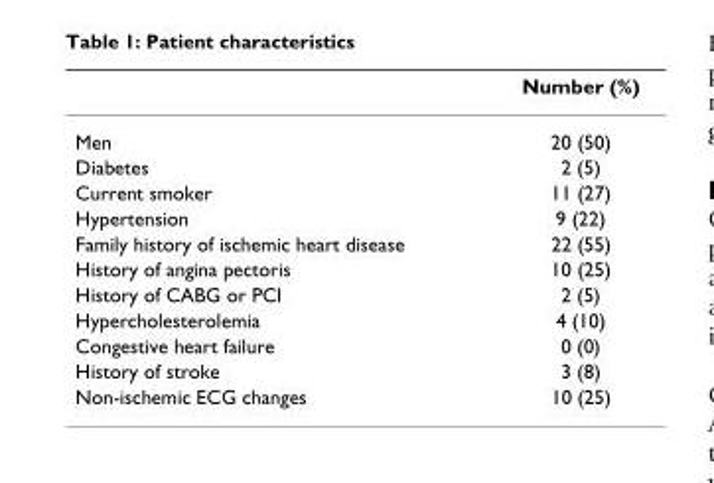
<table><thead><tr><td></td><td>Number (%)</td></tr></thead><tbody><tr><td>Men</td><td>20 (50)</td></tr><tr><td>Diabetes</td><td>2 (5)</td></tr><tr><td>Current smoker</td><td>11 (27)</td></tr><tr><td>Hypertension</td><td>9 (22)</td></tr><tr><td>Family history of ischemic heart disease</td><td>22 (55)</td></tr><tr><td>History of angina pectoris</td><td>10 (25)</td></tr><tr><td>History of CABG or PCI</td><td>2 (5)</td></tr><tr><td>Hypercholesterolemia</td><td>4 (10)</td></tr><tr><td>Congestive heart failure</td><td>0 (0)</td></tr><tr><td>History of stroke</td><td>3 (8)</td></tr><tr><td>Non-ischemic ECG changes</td><td>10 (25)</td></tr></tbody></table>